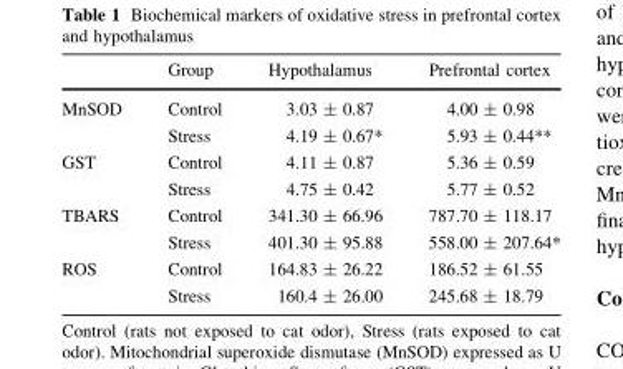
<table><thead><tr><td></td><td>Group</td><td>Hypothalamus</td><td>Prefrontal cortex</td></tr></thead><tbody><tr><td rowspan="2">MnSOD</td><td>Control</td><td>3.03 ± 0.87</td><td>4.00 ± 0.98</td></tr><tr><td>Stress</td><td>4.19 ± 0.67*</td><td>5.93 ± 0.44**</td></tr><tr><td rowspan="2">GST</td><td>Control</td><td>4.11 ± 0.87</td><td>5.36 ± 0.59</td></tr><tr><td>Stress</td><td>4.75 ± 0.42</td><td>5.77 ± 0.52</td></tr><tr><td rowspan="2">TBARS</td><td>Control</td><td>341.30 ± 66.96</td><td>787.70 ± 118.17</td></tr><tr><td>Stress</td><td>401.30 ± 95.88</td><td>558.00 ± 207.64*</td></tr><tr><td rowspan="2">ROS</td><td>Control</td><td>164.83 ± 26.22</td><td>186.52 ± 61.55</td></tr><tr><td>Stress</td><td>160.4 ± 26.00</td><td>245.68 ± 18.79</td></tr></tbody></table>